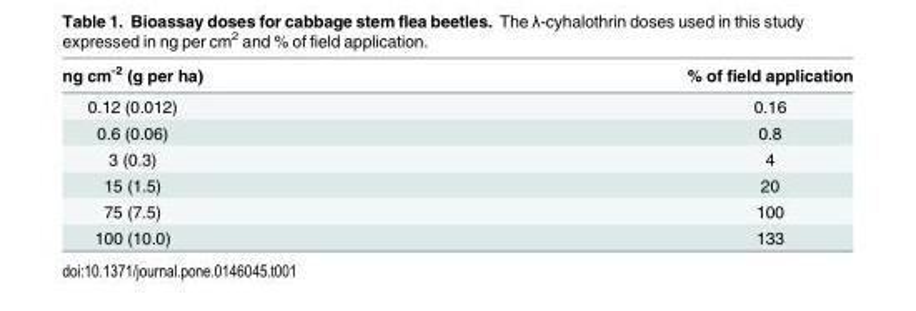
<table><thead><tr><td>ng cm<sup>-2</sup> (g per ha)</td><td>% of field application</td></tr></thead><tbody><tr><td>0.12 (0.012)</td><td>0.16</td></tr><tr><td>0.6 (0.06)</td><td>0.8</td></tr><tr><td>3 (0.3)</td><td>4</td></tr><tr><td>15 (1.5)</td><td>20</td></tr><tr><td>75 (7.5)</td><td>100</td></tr><tr><td>100 (10.0)</td><td>133</td></tr></tbody></table>